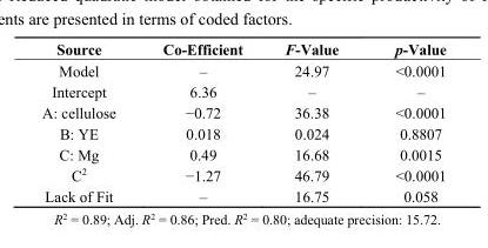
<table><thead><tr><td>Source</td><td>Co-Efficient</td><td>F-Value</td><td>p-Value</td></tr></thead><tbody><tr><td>Model</td><td>–</td><td>24.97</td><td>&lt;0.0001</td></tr><tr><td>Intercept</td><td>6.36</td><td>–</td><td>–</td></tr><tr><td>A: cellulose</td><td>−0.72</td><td>36.38</td><td>&lt;0.0001</td></tr><tr><td>B: YE</td><td>0.018</td><td>0.024</td><td>0.8807</td></tr><tr><td>C: Mg</td><td>0.49</td><td>16.68</td><td>0.0015</td></tr><tr><td>C<sup>2</sup></td><td>−1.27</td><td>46.79</td><td>&lt;0.0001</td></tr><tr><td>Lack of Fit</td><td>–</td><td>16.75</td><td>0.058</td></tr></tbody></table>